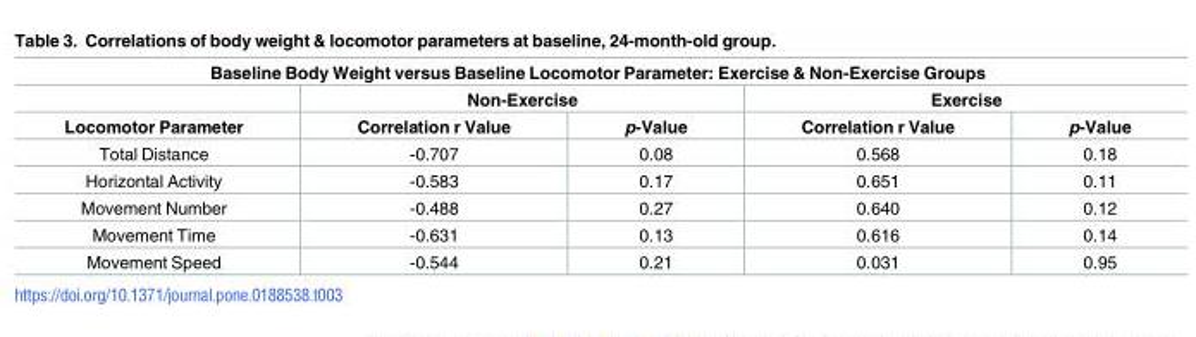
<table><thead><tr><td colspan="5">Baseline Body Weight versus Baseline Locomotor Parameter: Exercise &amp; Non-Exercise Groups</td></tr><tr><td rowspan="2">Locomotor Parameter</td><td colspan="2">Non-Exercise</td><td colspan="2">Exercise</td></tr><tr><td>Correlation r Value</td><td>p-Value</td><td>Correlation r Value</td><td>p-Value</td></tr></thead><tbody><tr><td>Total Distance</td><td>-0.707</td><td>0.08</td><td>0.568</td><td>0.18</td></tr><tr><td>Horizontal Activity</td><td>-0.583</td><td>0.17</td><td>0.651</td><td>0.11</td></tr><tr><td>Movement Number</td><td>-0.488</td><td>0.27</td><td>0.640</td><td>0.12</td></tr><tr><td>Movement Time</td><td>-0.631</td><td>0.13</td><td>0.616</td><td>0.14</td></tr><tr><td>Movement Speed</td><td>-0.544</td><td>0.21</td><td>0.031</td><td>0.95</td></tr></tbody></table>